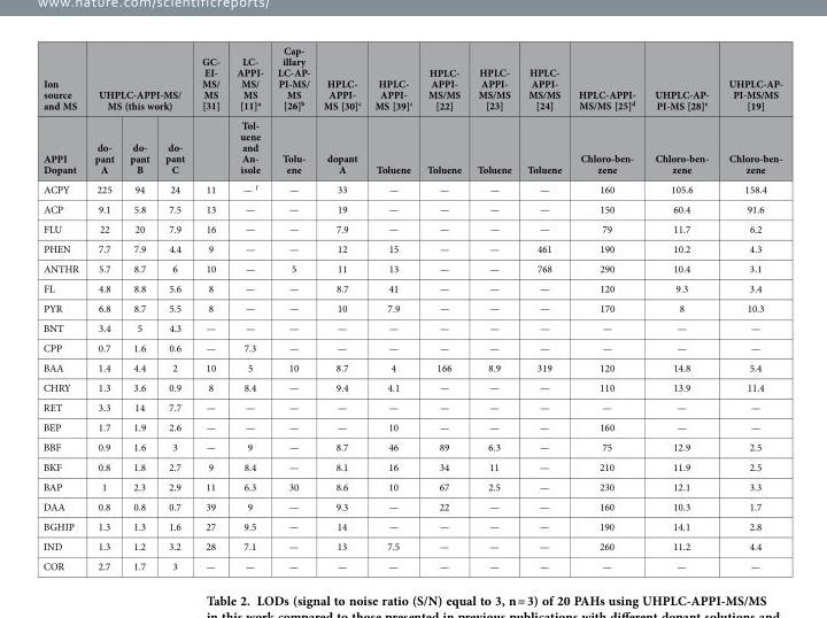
<table><thead><tr><td rowspan="2">Ion source and MS APPI Dopant</td><td colspan="3">UHPLC-APPI-MS/ MS (this work)</td><td rowspan="2">GC- EI- MS/ MS [31]</td><td rowspan="2">LC- APPI- MS/ MS [11]a Tol- uene and An- isole</td><td rowspan="2">Cap- illary LC-AP- PI-MS/ MS [26]b Tolu- ene</td><td rowspan="2">HPLC- APPI- MS [30]<sup>c</sup> dopant A</td><td rowspan="2">HPLC- APPI- MS [39]<sup>c</sup> Toluene</td><td rowspan="2">HPLC- APPI- MS/MS [22] Toluene</td><td rowspan="2">HPLC- APPI- MS/MS [23] Toluene</td><td rowspan="2">HPLC- APPI- MS/MS [24] Toluene</td><td rowspan="2">HPLC-APPI- MS/MS [25]d Chloro-ben- zene</td><td rowspan="2">UHPLC-AP- PI-MS [28]e Chloro-ben- zene</td><td rowspan="2">UHPLC-AP- PI-MS/MS [19] Chloro-ben- zene</td></tr><tr><td>do- pant A</td><td>do- pant B</td><td>do- pant C</td></tr></thead><tbody><tr><td>ACPY</td><td>225</td><td>94</td><td>24</td><td>11</td><td>— <sup>f</sup></td><td>—</td><td>33</td><td>—</td><td>—</td><td>—</td><td>—</td><td>160</td><td>105.6</td><td>158.4</td></tr><tr><td>ACP</td><td>9.1</td><td>5.8</td><td>7.5</td><td>13</td><td>—</td><td>—</td><td>19</td><td>—</td><td>—</td><td>—</td><td>—</td><td>150</td><td>60.4</td><td>91.6</td></tr><tr><td>FLU</td><td>22</td><td>20</td><td>7.9</td><td>16</td><td>—</td><td>—</td><td>7.9</td><td>—</td><td>—</td><td>—</td><td>—</td><td>79</td><td>11.7</td><td>6.2</td></tr><tr><td>PHEN</td><td>7.7</td><td>7.9</td><td>4.4</td><td>9</td><td>—</td><td>—</td><td>12</td><td>15</td><td>—</td><td>—</td><td>461</td><td>190</td><td>10.2</td><td>4.3</td></tr><tr><td>ANTHR</td><td>5.7</td><td>8.7</td><td>6</td><td>10</td><td>—</td><td>5</td><td>11</td><td>13</td><td>—</td><td>—</td><td>768</td><td>290</td><td>10.4</td><td>3.1</td></tr><tr><td>FL</td><td>4.8</td><td>8.8</td><td>5.6</td><td>8</td><td>—</td><td>—</td><td>8.7</td><td>41</td><td>—</td><td>—</td><td>—</td><td>120</td><td>9.3</td><td>3.4</td></tr><tr><td>PYR</td><td>6.8</td><td>8.7</td><td>5.5</td><td>8</td><td>—</td><td>—</td><td>10</td><td>7.9</td><td>—</td><td>—</td><td>—</td><td>170</td><td>8</td><td>10.3</td></tr><tr><td>BNT</td><td>3.4</td><td>5</td><td>4.3</td><td>—</td><td>—</td><td>—</td><td>—</td><td>—</td><td>—</td><td>—</td><td>—</td><td>—</td><td>—</td><td>—</td></tr><tr><td>CPP</td><td>0.7</td><td>1.6</td><td>0.6</td><td>—</td><td>7.3</td><td>—</td><td>—</td><td>—</td><td>—</td><td>—</td><td>—</td><td>—</td><td>—</td><td>—</td></tr><tr><td>BAA</td><td>1.4</td><td>4.4</td><td>2</td><td>10</td><td>5</td><td>10</td><td>8.7</td><td>4</td><td>166</td><td>8.9</td><td>319</td><td>120</td><td>14.8</td><td>5.4</td></tr><tr><td>CHRY</td><td>1.3</td><td>3.6</td><td>0.9</td><td>8</td><td>8.4</td><td>—</td><td>9.4</td><td>4.1</td><td>—</td><td>—</td><td>—</td><td>110</td><td>13.9</td><td>11.4</td></tr><tr><td>RET</td><td>3.3</td><td>14</td><td>7.7</td><td>—</td><td>—</td><td>—</td><td>—</td><td>—</td><td>—</td><td>—</td><td>—</td><td>—</td><td>—</td><td>—</td></tr><tr><td>BEP</td><td>1.7</td><td>1.9</td><td>2.6</td><td>—</td><td>—</td><td>—</td><td>—</td><td>10</td><td>—</td><td>—</td><td>—</td><td>160</td><td>—</td><td>—</td></tr><tr><td>BBF</td><td>0.9</td><td>1.6</td><td>3</td><td>—</td><td>9</td><td>—</td><td>8.7</td><td>46</td><td>89</td><td>6.3</td><td>—</td><td>75</td><td>12.9</td><td>2.5</td></tr><tr><td>BKF</td><td>0.8</td><td>1.8</td><td>2.7</td><td>9</td><td>8.4</td><td>—</td><td>8.1</td><td>16</td><td>34</td><td>11</td><td>—</td><td>210</td><td>11.9</td><td>2.5</td></tr><tr><td>BAP</td><td>1</td><td>2.3</td><td>2.9</td><td>11</td><td>6.3</td><td>30</td><td>8.6</td><td>10</td><td>67</td><td>2.5</td><td>—</td><td>230</td><td>12.1</td><td>3.3</td></tr><tr><td>DAA</td><td>0.8</td><td>0.8</td><td>0.7</td><td>39</td><td>9</td><td>—</td><td>9.3</td><td>—</td><td>22</td><td>—</td><td>—</td><td>160</td><td>10.3</td><td>1.7</td></tr><tr><td>BGHIP</td><td>1.3</td><td>1.3</td><td>1.6</td><td>27</td><td>9.5</td><td>—</td><td>14</td><td>—</td><td>—</td><td>—</td><td>—</td><td>190</td><td>14.1</td><td>2.8</td></tr><tr><td>IND</td><td>1.3</td><td>1.2</td><td>3.2</td><td>28</td><td>7.1</td><td>—</td><td>13</td><td>7.5</td><td>—</td><td>—</td><td>—</td><td>260</td><td>11.2</td><td>4.4</td></tr><tr><td>COR</td><td>2.7</td><td>1.7</td><td>3</td><td>—</td><td>—</td><td>—</td><td>—</td><td>—</td><td>—</td><td>—</td><td>—</td><td>—</td><td>—</td><td>—</td></tr></tbody></table>